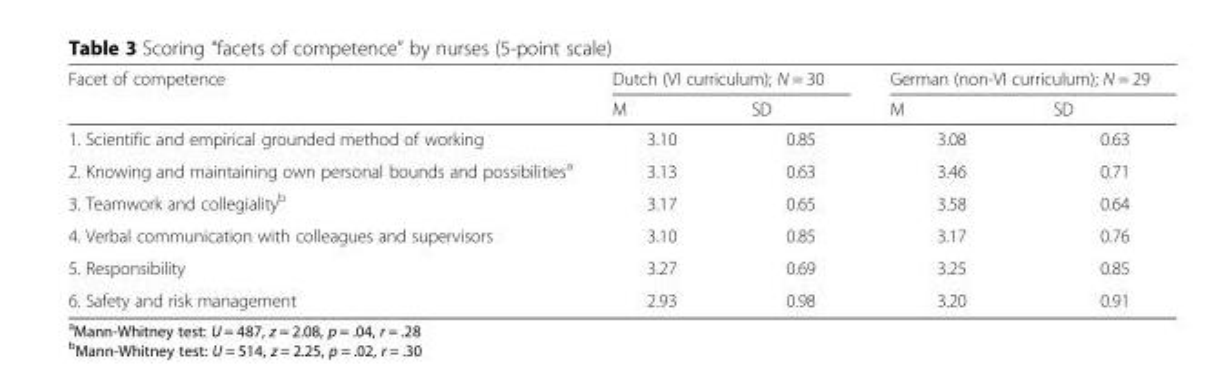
<table><thead><tr><td rowspan="2">Facet of competence</td><td colspan="2">Dutch (VI curriculum); N = 30</td><td colspan="2">German (non-VI curriculum); N = 29</td></tr><tr><td>M</td><td>SD</td><td>M</td><td>SD</td></tr></thead><tbody><tr><td>1. Scientific and empirical grounded method of working</td><td>3.10</td><td>0.85</td><td>3.08</td><td>0.63</td></tr><tr><td>2. Knowing and maintaining own personal bounds and possibilities<sup>a</sup></td><td>3.13</td><td>0.63</td><td>3.46</td><td>0.71</td></tr><tr><td>3. Teamwork and collegiality<sup>b</sup></td><td>3.17</td><td>0.65</td><td>3.58</td><td>0.64</td></tr><tr><td>4. Verbal communication with colleagues and supervisors</td><td>3.10</td><td>0.85</td><td>3.17</td><td>0.76</td></tr><tr><td>5. Responsibility</td><td>3.27</td><td>0.69</td><td>3.25</td><td>0.85</td></tr><tr><td>6. Safety and risk management</td><td>2.93</td><td>0.98</td><td>3.20</td><td>0.91</td></tr></tbody></table>